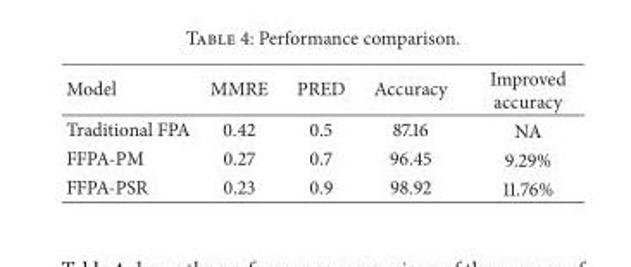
<table><thead><tr><td>Model</td><td>MMRE</td><td>PRED</td><td>Accuracy</td><td>Improved accuracy</td></tr></thead><tbody><tr><td>Traditional FPA</td><td>0.42</td><td>0.5</td><td>87.16</td><td>NA</td></tr><tr><td>FFPA-PM</td><td>0.27</td><td>0.7</td><td>96.45</td><td>9.29%</td></tr><tr><td>FFPA-PSR</td><td>0.23</td><td>0.9</td><td>98.92</td><td>11.76%</td></tr></tbody></table>